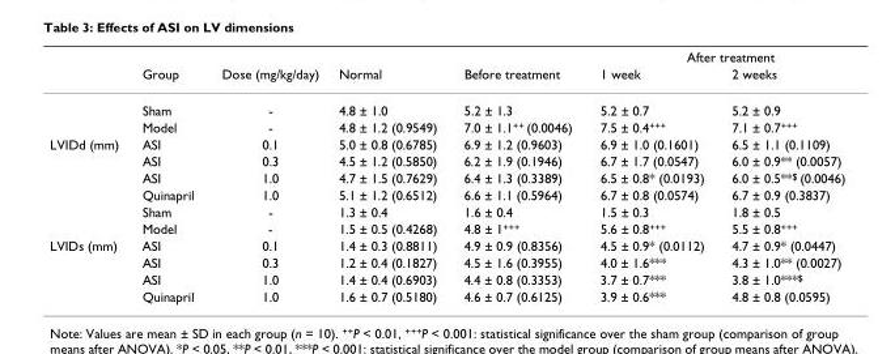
<table><thead><tr><td rowspan="2"></td><td rowspan="2">Group</td><td rowspan="2">Dose (mg/kg/day)</td><td rowspan="2">Normal</td><td rowspan="2">Before treatment</td><td colspan="2">After treatment</td></tr><tr><td>1 week</td><td>2 weeks</td></tr></thead><tbody><tr><td></td><td>Sham</td><td>-</td><td>4.8 ± 1.0</td><td>5.2 ± 1.3</td><td>5.2 ± 0.7</td><td>5.2 ± 0.9</td></tr><tr><td></td><td>Model</td><td>-</td><td>4.8 ± 1.2 (0.9549)</td><td>7.0 ± 1.1<sup>++</sup> (0.0046)</td><td>7.5 ± 0.4<sup>+++</sup></td><td>7.1 ± 0.7<sup>+++</sup></td></tr><tr><td rowspan="6">LVIDd (mm)</td><td>ASI</td><td>0.1</td><td>5.0 ± 0.8 (0.6785)</td><td>6.9 ± 1.2 (0.9603)</td><td>6.9 ± 1.0 (0.1601)</td><td>6.5 ± 1.1 (0.1109)</td></tr><tr><td>ASI</td><td>0.3</td><td>4.5 ± 1.2 (0.5850)</td><td>6.2 ± 1.9 (0.1946)</td><td>6.7 ± 1.7 (0.0547)</td><td>6.0 ± 0.9** (0.0057)</td></tr><tr><td>ASI</td><td>1.0</td><td>4.7 ± 1.5 (0.7629)</td><td>6.4 ± 1.3 (0.3389)</td><td>6.5 ± 0.8* (0.0193)</td><td>6.0 ± 0.5**<sup>$</sup> (0.0046)</td></tr><tr><td>Quinapril</td><td>1.0</td><td>5.1 ± 1.2 (0.6512)</td><td>6.6 ± 1.1 (0.5964)</td><td>6.7 ± 0.8 (0.0574)</td><td>6.7 ± 0.9 (0.3837)</td></tr><tr><td>Sham</td><td>-</td><td>1.3 ± 0.4</td><td>1.6 ± 0.4</td><td>1.5 ± 0.3</td><td>1.8 ± 0.5</td></tr><tr><td>Model</td><td>-</td><td>1.5 ± 0.5 (0.4268)</td><td>4.8 ± 1<sup>+++</sup></td><td>5.6 ± 0.8<sup>+++</sup></td><td>5.5 ± 0.8<sup>+++</sup></td></tr><tr><td rowspan="4">LVIDs (mm)</td><td>ASI</td><td>0.1</td><td>1.4 ± 0.3 (0.8811)</td><td>4.9 ± 0.9 (0.8356)</td><td>4.5 ± 0.9* (0.0112)</td><td>4.7 ± 0.9* (0.0447)</td></tr><tr><td>ASI</td><td>0.3</td><td>1.2 ± 0.4 (0.1827)</td><td>4.5 ± 1.6 (0.3955)</td><td>4.0 ± 1.6***</td><td>4.3 ± 1.0** (0.0027)</td></tr><tr><td>ASI</td><td>1.0</td><td>1.4 ± 0.4 (0.6903)</td><td>4.4 ± 0.8 (0.3353)</td><td>3.7 ± 0.7***</td><td>3.8 ± 1.0***<sup>$</sup></td></tr><tr><td>Quinapril</td><td>1.0</td><td>1.6 ± 0.7 (0.5180)</td><td>4.6 ± 0.7 (0.6125)</td><td>3.9 ± 0.6***</td><td>4.8 ± 0.8 (0.0595)</td></tr></tbody></table>